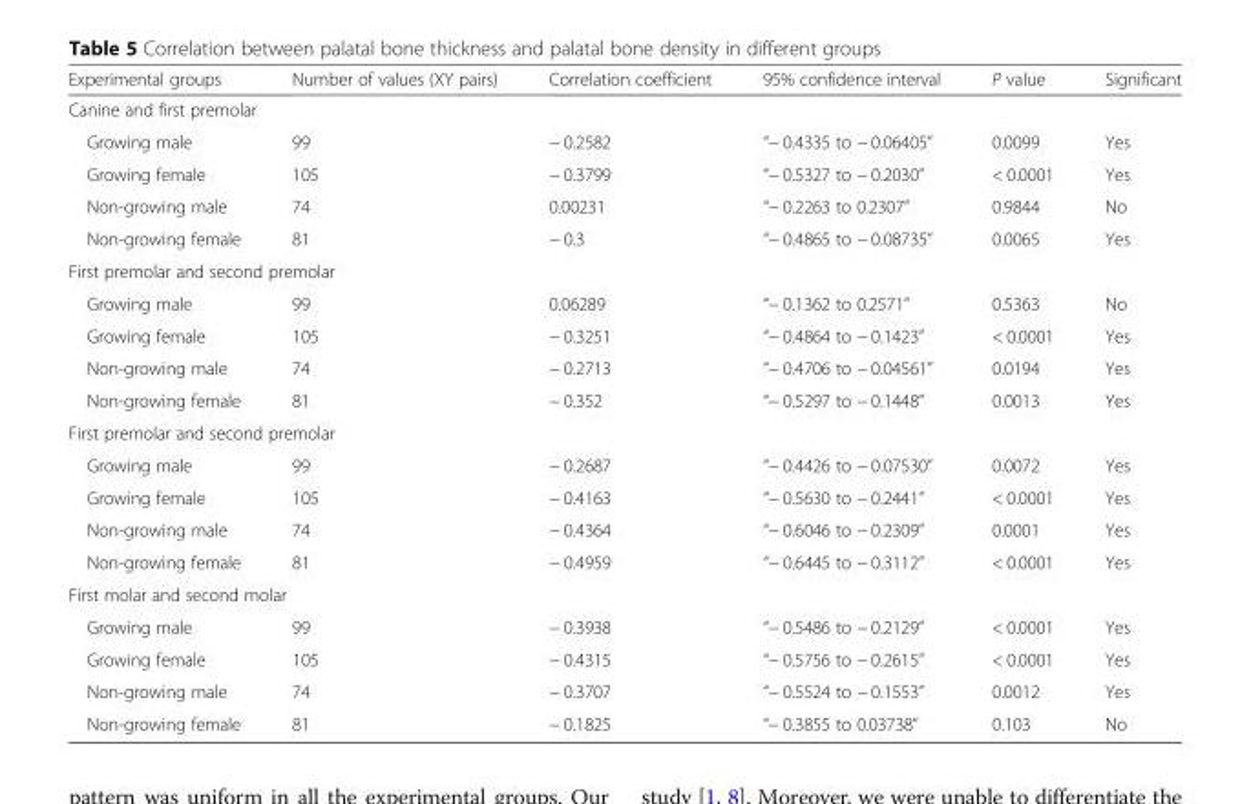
<table><thead><tr><td>Experimental groups</td><td>Number of values (XY pairs)</td><td>Correlation coefficient</td><td>95% confidence interval</td><td>P value</td><td>Significant</td></tr></thead><tbody><tr><td colspan="6">Canine and first premolar</td></tr><tr><td>Growing male</td><td>99</td><td>− 0.2582</td><td>“− 0.4335 to − 0.06405”</td><td>0.0099</td><td>Yes</td></tr><tr><td>Growing female</td><td>105</td><td>− 0.3799</td><td>“− 0.5327 to − 0.2030”</td><td>&lt; 0.0001</td><td>Yes</td></tr><tr><td>Non-growing male</td><td>74</td><td>0.00231</td><td>“− 0.2263 to 0.2307”</td><td>0.9844</td><td>No</td></tr><tr><td>Non-growing female</td><td>81</td><td>− 0.3</td><td>“− 0.4865 to − 0.08735”</td><td>0.0065</td><td>Yes</td></tr><tr><td colspan="6">First premolar and second premolar</td></tr><tr><td>Growing male</td><td>99</td><td>0.06289</td><td>“− 0.1362 to 0.2571”</td><td>0.5363</td><td>No</td></tr><tr><td>Growing female</td><td>105</td><td>− 0.3251</td><td>“− 0.4864 to − 0.1423”</td><td>&lt; 0.0001</td><td>Yes</td></tr><tr><td>Non-growing male</td><td>74</td><td>− 0.2713</td><td>“− 0.4706 to − 0.04561”</td><td>0.0194</td><td>Yes</td></tr><tr><td>Non-growing female</td><td>81</td><td>− 0.352</td><td>“− 0.5297 to − 0.1448”</td><td>0.0013</td><td>Yes</td></tr><tr><td colspan="6">First premolar and second premolar</td></tr><tr><td>Growing male</td><td>99</td><td>− 0.2687</td><td>“− 0.4426 to − 0.07530”</td><td>0.0072</td><td>Yes</td></tr><tr><td>Growing female</td><td>105</td><td>− 0.4163</td><td>“− 0.5630 to − 0.2441”</td><td>&lt; 0.0001</td><td>Yes</td></tr><tr><td>Non-growing male</td><td>74</td><td>− 0.4364</td><td>“− 0.6046 to − 0.2309”</td><td>0.0001</td><td>Yes</td></tr><tr><td>Non-growing female</td><td>81</td><td>− 0.4959</td><td>“− 0.6445 to − 0.3112”</td><td>&lt; 0.0001</td><td>Yes</td></tr><tr><td colspan="6">First molar and second molar</td></tr><tr><td>Growing male</td><td>99</td><td>− 0.3938</td><td>“− 0.5486 to − 0.2129”</td><td>&lt; 0.0001</td><td>Yes</td></tr><tr><td>Growing female</td><td>105</td><td>− 0.4315</td><td>“− 0.5756 to − 0.2615”</td><td>&lt; 0.0001</td><td>Yes</td></tr><tr><td>Non-growing male</td><td>74</td><td>− 0.3707</td><td>“− 0.5524 to − 0.1553”</td><td>0.0012</td><td>Yes</td></tr><tr><td>Non-growing female</td><td>81</td><td>− 0.1825</td><td>“− 0.3855 to 0.03738”</td><td>0.103</td><td>No</td></tr></tbody></table>